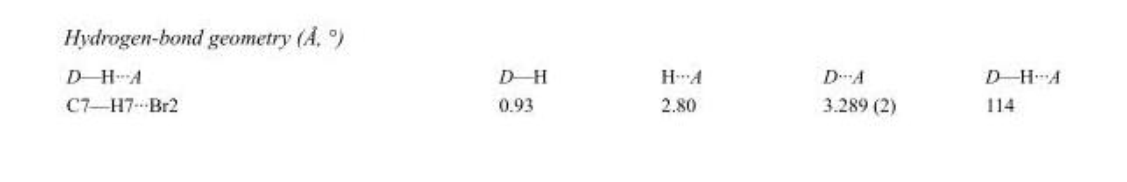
<table><tbody><tr><td>D—H···A</td><td>D—H</td><td>H···A</td><td>D···A</td><td>D—H···A</td></tr><tr><td>C7—H7···Br2</td><td>0.93</td><td>2.80</td><td>3.289 (2)</td><td>114</td></tr></tbody></table>